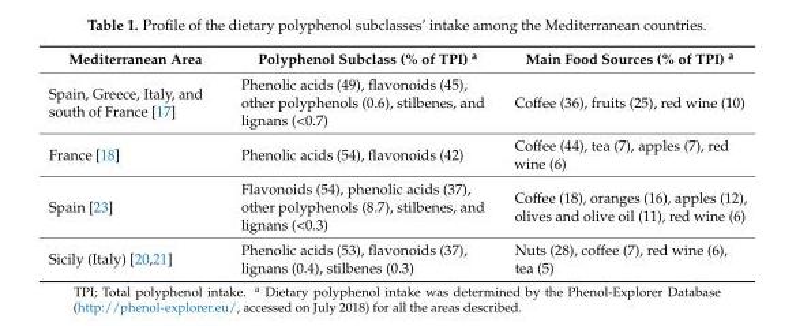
<table><thead><tr><td>Mediterranean Area</td><td>Polyphenol Subclass (% of TPI) <sup>a</sup></td><td>Main Food Sources (% of TPI) <sup>a</sup></td></tr></thead><tbody><tr><td>Spain, Greece, Italy, and south of France [17]</td><td>Phenolic acids (49), flavonoids (45), other polyphenols (0.6), stilbenes, and lignans (&lt;0.7)</td><td>Coffee (36), fruits (25), red wine (10)</td></tr><tr><td>France [18]</td><td>Phenolic acids (54), flavonoids (42)</td><td>Coffee (44), tea (7), apples (7), red wine (6)</td></tr><tr><td>Spain [23]</td><td>Flavonoids (54), phenolic acids (37), other polyphenols (8.7), stilbenes, and lignans (&lt;0.3)</td><td>Coffee (18), oranges (16), apples (12), olives and olive oil (11), red wine (6)</td></tr><tr><td>Sicily (Italy) [20,21]</td><td>Phenolic acids (53), flavonoids (37), lignans (0.4), stilbenes (0.3)</td><td>Nuts (28), coffee (7), red wine (6), tea (5)</td></tr></tbody></table>